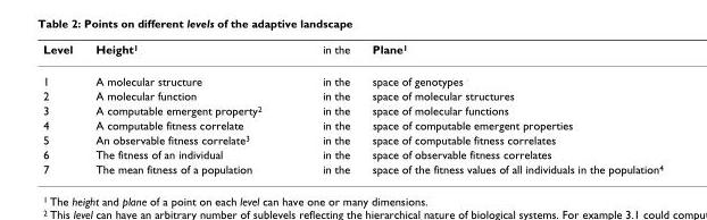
<table><thead><tr><td>Level</td><td>Height<sup>1</sup></td><td>in the</td><td>Plane<sup>1</sup></td></tr></thead><tbody><tr><td>1</td><td>A molecular structure</td><td>in the</td><td>space of genotypes</td></tr><tr><td>2</td><td>A molecular function</td><td>in the</td><td>space of molecular structures</td></tr><tr><td>3</td><td>A computable emergent property<sup>2</sup></td><td>in the</td><td>space of molecular functions</td></tr><tr><td>4</td><td>A computable fitness correlate</td><td>in the</td><td>space of computable emergent properties</td></tr><tr><td>5</td><td>An observable fitness correlate<sup>3</sup></td><td>in the</td><td>space of computable fitness correlates</td></tr><tr><td>6</td><td>The fitness of an individual</td><td>in the</td><td>space of observable fitness correlates</td></tr><tr><td>7</td><td>The mean fitness of a population</td><td>in the</td><td>space of the fitness values of all individuals in the population<sup>4</sup></td></tr></tbody></table>